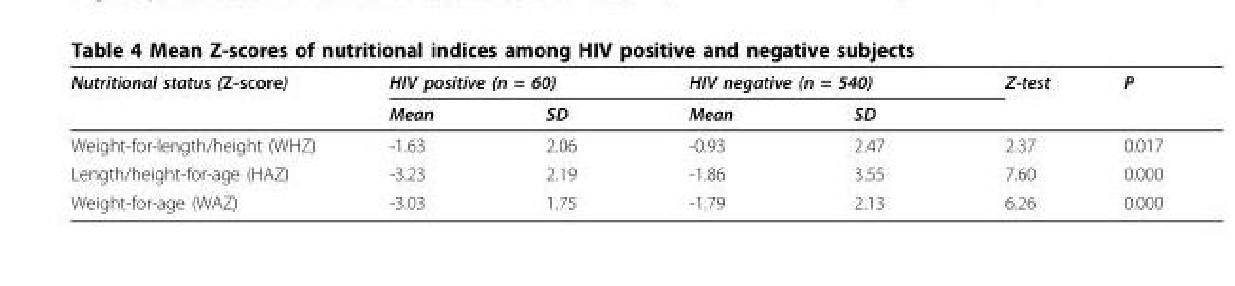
<table><thead><tr><td rowspan="2">Nutritional status (Z-score)</td><td colspan="2">HIV positive (n = 60)</td><td colspan="2">HIV negative (n = 540)</td><td rowspan="2">Z-test</td><td rowspan="2">P</td></tr><tr><td>Mean</td><td>SD</td><td>Mean</td><td>SD</td></tr></thead><tbody><tr><td>Weight-for-length/height (WHZ)</td><td>-1.63</td><td>2.06</td><td>-0.93</td><td>2.47</td><td>2.37</td><td>0.017</td></tr><tr><td>Length/height-for-age (HAZ)</td><td>-3.23</td><td>2.19</td><td>-1.86</td><td>3.55</td><td>7.60</td><td>0.000</td></tr><tr><td>Weight-for-age (WAZ)</td><td>-3.03</td><td>1.75</td><td>-1.79</td><td>2.13</td><td>6.26</td><td>0.000</td></tr></tbody></table>